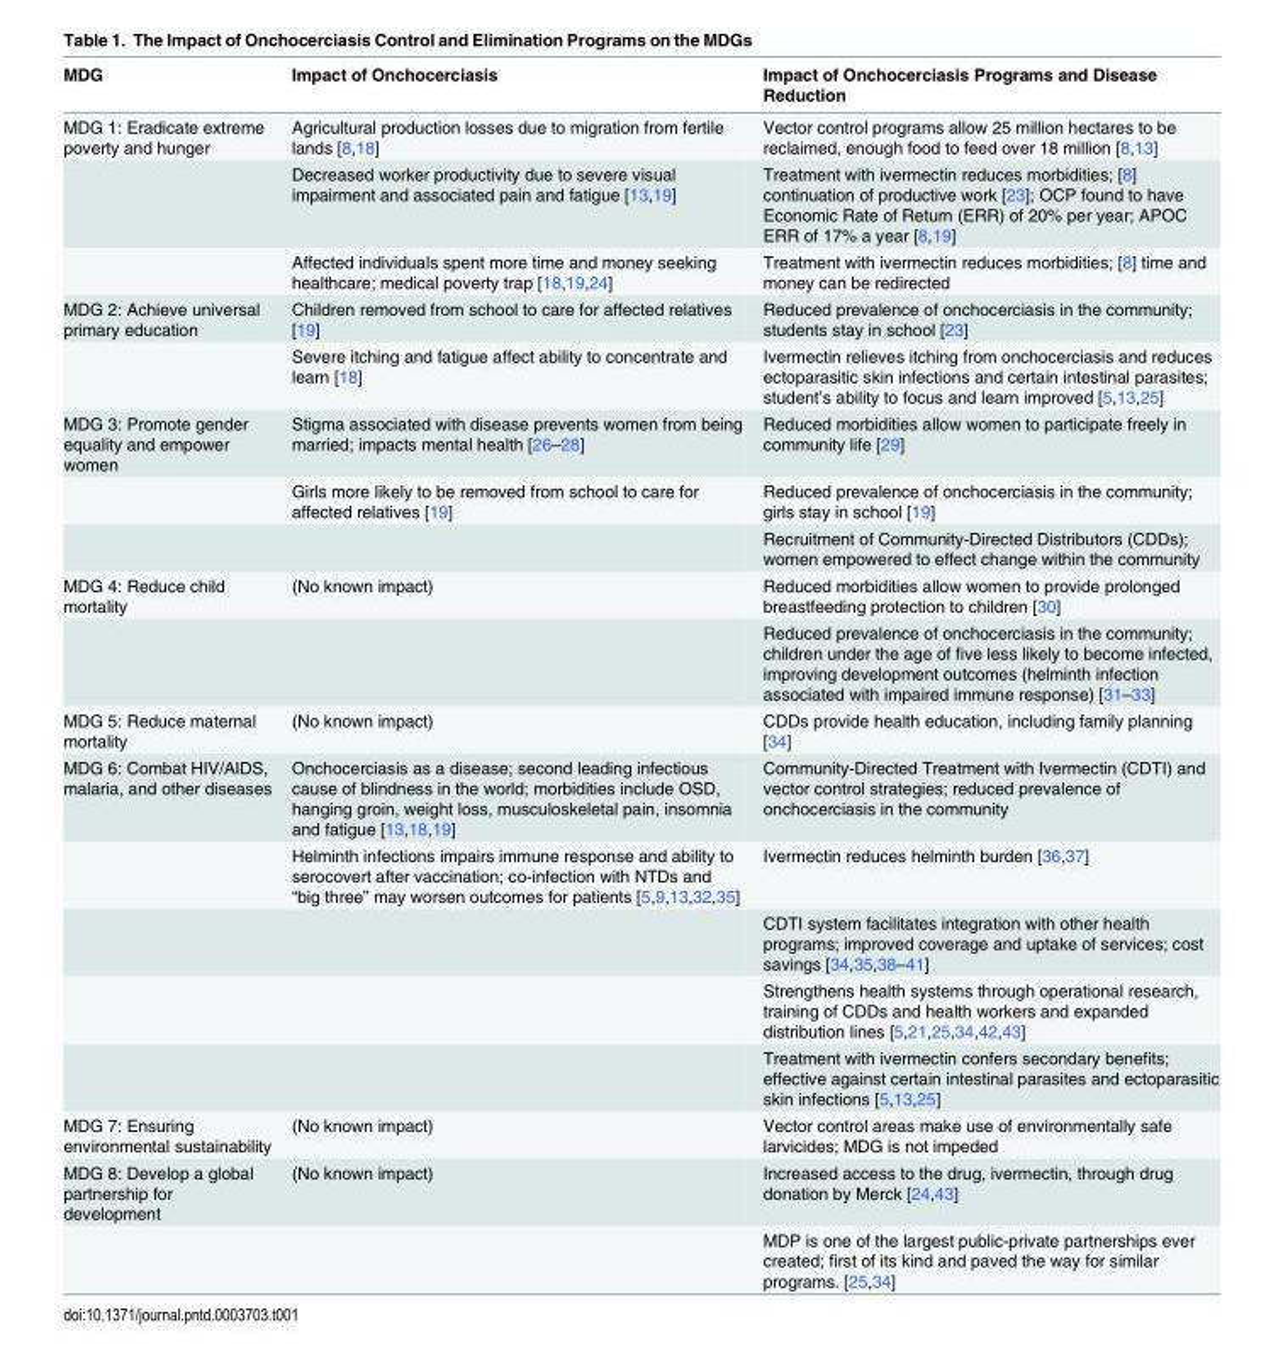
<table><thead><tr><td>MDG</td><td>Impact of Onchocerciasis</td><td>Impact of Onchocerciasis Programs and Disease Reduction</td></tr></thead><tbody><tr><td rowspan="3">MDG 1: Eradicate extreme poverty and hunger</td><td>Agricultural production losses due to migration from fertile lands [8,18]</td><td>Vector control programs allow 25 million hectares to be reclaimed, enough food to feed over 18 million [8,13]</td></tr><tr><td>Decreased worker productivity due to severe visual impairment and associated pain and fatigue [13,19]</td><td>Treatment with ivermectin reduces morbidities; [8] continuation of productive work [23]; OCP found to have Economic Rate of Return (ERR) of 20% per year; APOC ERR of 17% a year [8,19]</td></tr><tr><td>Affected individuals spent more time and money seeking healthcare; medical poverty trap [18,19,24]</td><td>Treatment with ivermectin reduces morbidities; [8] time and money can be redirected</td></tr><tr><td rowspan="2">MDG 2: Achieve universal primary education</td><td>Children removed from school to care for affected relatives [19]</td><td>Reduced prevalence of onchocerciasis in the community; students stay in school [23]</td></tr><tr><td>Severe itching and fatigue affect ability to concentrate and learn [18]</td><td>Ivermectin relieves itching from onchocerciasis and reduces ectoparasitic skin infections and certain intestinal parasites; student’s ability to focus and learn improved [5,13,25]</td></tr><tr><td rowspan="3">MDG 3: Promote gender equality and empower women</td><td>Stigma associated with disease prevents women from being married; impacts mental health [26–28]</td><td>Reduced morbidities allow women to participate freely in community life [29]</td></tr><tr><td>Girls more likely to be removed from school to care for affected relatives [19]</td><td>Reduced prevalence of onchocerciasis in the community; girls stay in school [19]</td></tr><tr><td></td><td>Recruitment of Community-Directed Distributors (CDDs); women empowered to effect change within the community</td></tr><tr><td rowspan="2">MDG 4: Reduce child mortality</td><td>(No known impact)</td><td>Reduced morbidities allow women to provide prolonged breastfeeding protection to children [30]</td></tr><tr><td></td><td>Reduced prevalence of onchocerciasis in the community; children under the age of five less likely to become infected, improving development outcomes (helminth infection associated with impaired immune response) [31–33]</td></tr><tr><td>MDG 5: Reduce maternal mortality</td><td>(No known impact)</td><td>CDDs provide health education, including family planning [34]</td></tr><tr><td rowspan="5">MDG 6: Combat HIV/AIDS, malaria, and other diseases</td><td>Onchocerciasis as a disease; second leading infectious cause of blindness in the world; morbidities include OSD, hanging groin, weight loss, musculoskeletal pain, insomnia and fatigue [13,18,19]</td><td>Community-Directed Treatment with Ivermectin (CDTI) and vector control strategies; reduced prevalence of onchocerciasis in the community</td></tr><tr><td>Helminth infections impairs immune response and ability to serocovert after vaccination; co-infection with NTDs and “big three” may worsen outcomes for patients [5,9,13,32,35]</td><td>Ivermectin reduces helminth burden [36,37]</td></tr><tr><td></td><td>CDTI system facilitates integration with other health programs; improved coverage and uptake of services; cost savings [34,35,38–41]</td></tr><tr><td></td><td>Strengthens health systems through operational research, training of CDDs and health workers and expanded distribution lines [5,21,25,34,42,43]</td></tr><tr><td></td><td>Treatment with ivermectin confers secondary benefits; effective against certain intestinal parasites and ectoparasitic skin infections [5,13,25]</td></tr><tr><td>MDG 7: Ensuring environmental sustainability</td><td>(No known impact)</td><td>Vector control areas make use of environmentally safe larvicides; MDG is not impeded</td></tr><tr><td rowspan="2">MDG 8: Develop a global partnership for development</td><td>(No known impact)</td><td>Increased access to the drug, ivermectin, through drug donation by Merck [24,43]</td></tr><tr><td></td><td>MDP is one of the largest public-private partnerships ever created; first of its kind and paved the way for similar programs. [25,34]</td></tr></tbody></table>